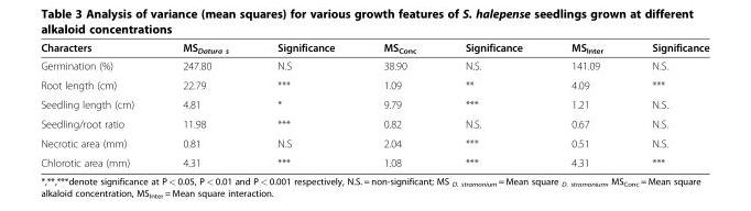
<table><thead><tr><td>Characters</td><td>MS<sub>Datura s</sub></td><td>Significance</td><td>MS<sub>Conc</sub></td><td>Significance</td><td>MS<sub>Inter</sub></td><td>Significance</td></tr></thead><tbody><tr><td>Germination (%)</td><td>247.80</td><td>N.S</td><td>38.90</td><td>N.S.</td><td>141.09</td><td>N.S.</td></tr><tr><td>Root length (cm)</td><td>22.79</td><td>***</td><td>1.09</td><td>**</td><td>4.09</td><td>***</td></tr><tr><td>Seedling length (cm)</td><td>4.81</td><td>*</td><td>9.79</td><td>***</td><td>1.21</td><td>N.S.</td></tr><tr><td>Seedling/root ratio</td><td>11.98</td><td>***</td><td>0.82</td><td>N.S.</td><td>0.67</td><td>N.S.</td></tr><tr><td>Necrotic area (mm)</td><td>0.81</td><td>N.S</td><td>2.04</td><td>***</td><td>0.51</td><td>N.S.</td></tr><tr><td>Chlorotic area (mm)</td><td>4.31</td><td>***</td><td>1.08</td><td>***</td><td>4.31</td><td>***</td></tr></tbody></table>